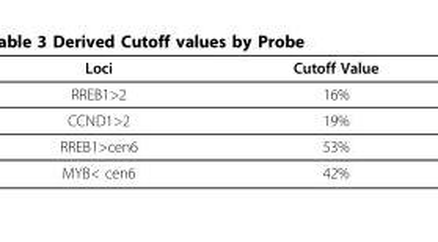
<table><thead><tr><td>Loci</td><td>Cutoff Value</td></tr></thead><tbody><tr><td>RREB1&gt;2</td><td>16%</td></tr><tr><td>CCND1&gt;2</td><td>19%</td></tr><tr><td>RREB1&gt;cen6</td><td>53%</td></tr><tr><td>MYB&lt; cen6</td><td>42%</td></tr></tbody></table>